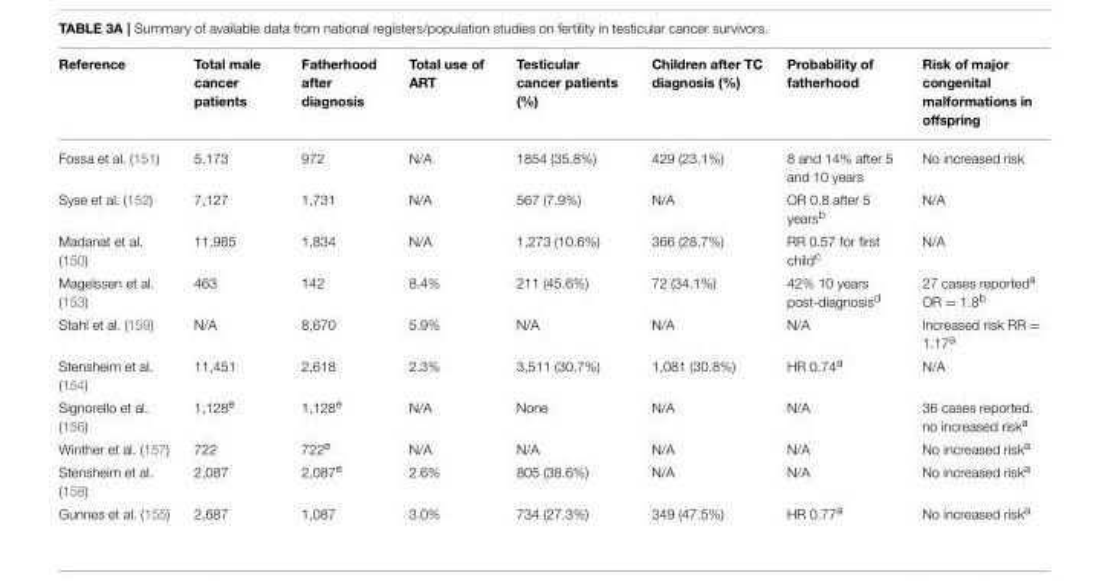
<table><thead><tr><td>Reference</td><td>Total male cancer patients</td><td>Fatherhood after diagnosis</td><td>Total use of ART</td><td>Testicular cancer patients (%)</td><td>Children after TC diagnosis (%)</td><td>Probability of fatherhood</td><td>Risk of major congenital malformations in offspring</td></tr></thead><tbody><tr><td>Fossa et al. (151)</td><td>5,173</td><td>972</td><td>N/A</td><td>1854 (35.8%)</td><td>429 (23.1%)</td><td>8 and 14% after 5 and 10 years</td><td>No increased risk</td></tr><tr><td>Syse et al. (152)</td><td>7,127</td><td>1,731</td><td>N/A</td><td>567 (7.9%)</td><td>N/A</td><td>OR 0.8 after 5 years<sup>b</sup></td><td>N/A</td></tr><tr><td>Madanat et al. (150)</td><td>11,985</td><td>1,834</td><td>N/A</td><td>1,273 (10.6%)</td><td>366 (28.7%)</td><td>RR 0.57 for first child<sup>c</sup></td><td>N/A</td></tr><tr><td>Magelssen et al. (153)</td><td>463</td><td>142</td><td>8.4%</td><td>211 (45.6%)</td><td>72 (34.1%)</td><td>42% 10 years post-diagnosis<sup>d</sup></td><td>27 cases reported<sup>a</sup> OR = 1.8<sup>b</sup></td></tr><tr><td>Stahl et al. (159)</td><td>N/A</td><td>8,670</td><td>5.9%</td><td>N/A</td><td>N/A</td><td>N/A</td><td>Increased risk RR = 1.17<sup>a</sup></td></tr><tr><td>Stensheim et al. (154)</td><td>11,451</td><td>2,618</td><td>2.3%</td><td>3,511 (30.7%)</td><td>1,081 (30.8%)</td><td>HR 0.74<sup>a</sup></td><td>N/A</td></tr><tr><td>Signorello et al. (156)</td><td>1,128<sup>e</sup></td><td>1,128<sup>e</sup></td><td>N/A</td><td>None</td><td>N/A</td><td>N/A</td><td>36 cases reported. no increased risk<sup>a</sup></td></tr><tr><td>Winther et al. (157)</td><td>722</td><td>722<sup>e</sup></td><td>N/A</td><td>N/A</td><td>N/A</td><td>N/A</td><td>No increased risk<sup>a</sup></td></tr><tr><td>Stensheim et al. (158)</td><td>2,087</td><td>2,087<sup>e</sup></td><td>2.6%</td><td>805 (38.6%)</td><td>N/A</td><td>N/A</td><td>No increased risk<sup>a</sup></td></tr><tr><td>Gunnes et al. (155)</td><td>2,687</td><td>1,087</td><td>3.0%</td><td>734 (27.3%)</td><td>349 (47.5%)</td><td>HR 0.77<sup>a</sup></td><td>No increased risk<sup>a</sup></td></tr></tbody></table>